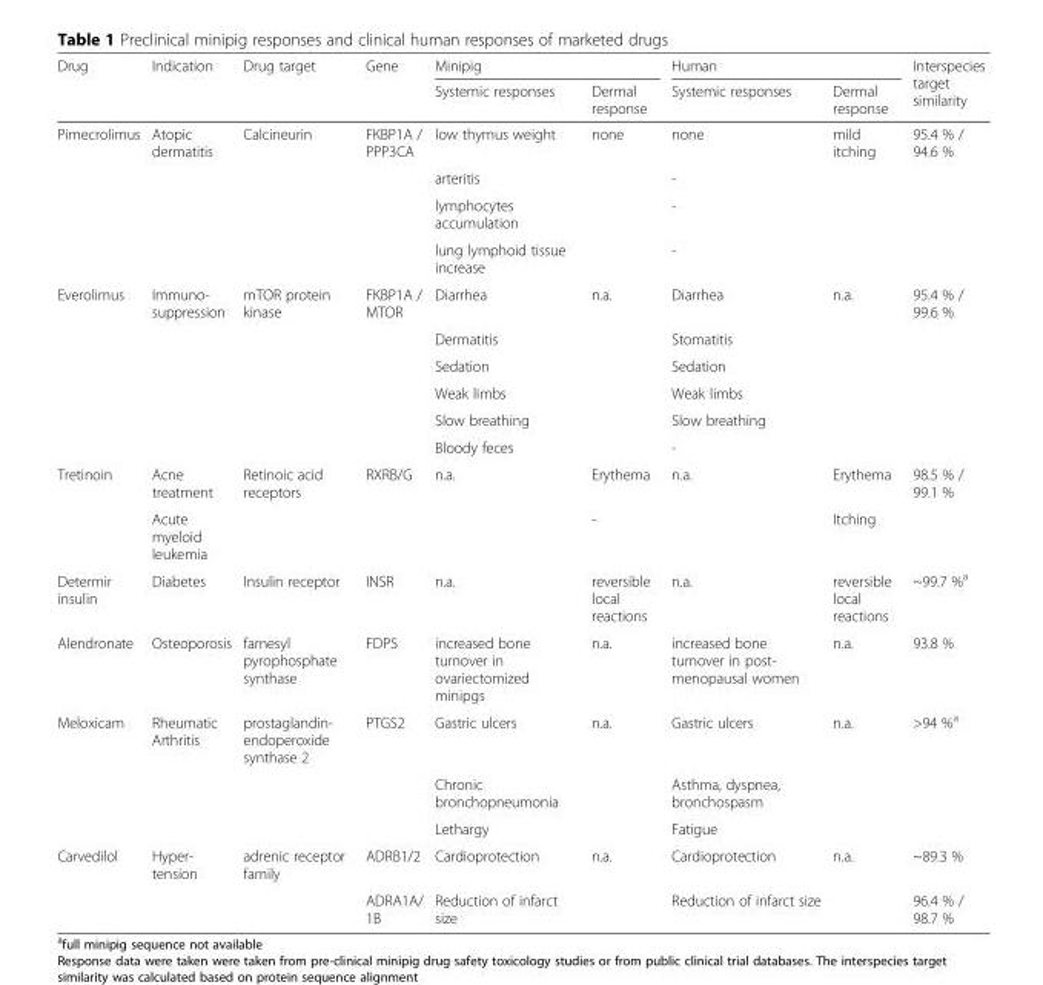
<table><thead><tr><td rowspan="2">Drug</td><td rowspan="2">Indication</td><td rowspan="2">Drug target</td><td rowspan="2">Gene</td><td colspan="2">Minipig</td><td colspan="2">Human</td><td rowspan="2">Interspecies target similarity</td></tr><tr><td>Systemic responses</td><td>Dermal response</td><td>Systemic responses</td><td>Dermal response</td></tr></thead><tbody><tr><td rowspan="4">Pimecrolimus</td><td>Atopic dermatitis</td><td>Calcineurin</td><td>FKBP1A / PPP3CA</td><td>low thymus weight</td><td>none</td><td>none</td><td>mild itching</td><td>95.4 % / 94.6 %</td></tr><tr><td></td><td></td><td></td><td>arteritis</td><td></td><td>-</td><td></td><td></td></tr><tr><td></td><td></td><td></td><td>lymphocytes accumulation</td><td></td><td>-</td><td></td><td></td></tr><tr><td></td><td></td><td></td><td>lung lymphoid tissue increase</td><td></td><td>-</td><td></td><td></td></tr><tr><td rowspan="6">Everolimus</td><td>Immuno- suppression</td><td>mTOR protein kinase</td><td>FKBP1A / MTOR</td><td>Diarrhea</td><td>n.a.</td><td>Diarrhea</td><td>n.a.</td><td>95.4 % / 99.6 %</td></tr><tr><td></td><td></td><td></td><td>Dermatitis</td><td></td><td>Stomatitis</td><td></td><td></td></tr><tr><td></td><td></td><td></td><td>Sedation</td><td></td><td>Sedation</td><td></td><td></td></tr><tr><td></td><td></td><td></td><td>Weak limbs</td><td></td><td>Weak limbs</td><td></td><td></td></tr><tr><td></td><td></td><td></td><td>Slow breathing</td><td></td><td>Slow breathing</td><td></td><td></td></tr><tr><td></td><td></td><td></td><td>Bloody feces</td><td></td><td>-</td><td></td><td></td></tr><tr><td rowspan="2">Tretinoin</td><td>Acne treatment</td><td rowspan="2">Retinoic acid receptors</td><td>RXRB/G</td><td>n.a.</td><td>Erythema</td><td>n.a.</td><td>Erythema</td><td>98.5 % / 99.1 %</td></tr><tr><td>Acute myeloid leukemia</td><td></td><td></td><td>-</td><td></td><td>Itching</td><td></td></tr><tr><td>Determir insulin</td><td>Diabetes</td><td>Insulin receptor</td><td>INSR</td><td>n.a.</td><td>reversible local reactions</td><td>n.a.</td><td>reversible local reactions</td><td>~99.7 %<sup>a</sup></td></tr><tr><td>Alendronate</td><td>Osteoporosis</td><td>farnesyl pyrophosphate synthase</td><td>FDPS</td><td>increased bone turnover in ovariectomized minipgs</td><td>n.a.</td><td>increased bone turnover in post- menopausal women</td><td>n.a.</td><td>93.8 %</td></tr><tr><td rowspan="3">Meloxicam</td><td>Rheumatic Arthritis</td><td>prostaglandin- endoperoxide synthase 2</td><td>PTGS2</td><td>Gastric ulcers</td><td>n.a.</td><td>Gastric ulcers</td><td>n.a.</td><td>&gt;94 %<sup>a</sup></td></tr><tr><td></td><td></td><td></td><td>Chronic bronchopneumonia</td><td></td><td>Asthma, dyspnea, bronchospasm</td><td></td><td></td></tr><tr><td></td><td></td><td></td><td>Lethargy</td><td></td><td>Fatigue</td><td></td><td></td></tr><tr><td rowspan="2">Carvedilol</td><td>Hyper- tension</td><td>adrenic receptor family</td><td>ADRB1/2</td><td>Cardioprotection</td><td>n.a.</td><td>Cardioprotection</td><td>n.a.</td><td>~89.3 %</td></tr><tr><td></td><td></td><td>ADRA1A/ 1B</td><td>Reduction of infarct size</td><td></td><td>Reduction of infarct size</td><td></td><td>96.4 % / 98.7 %</td></tr></tbody></table>